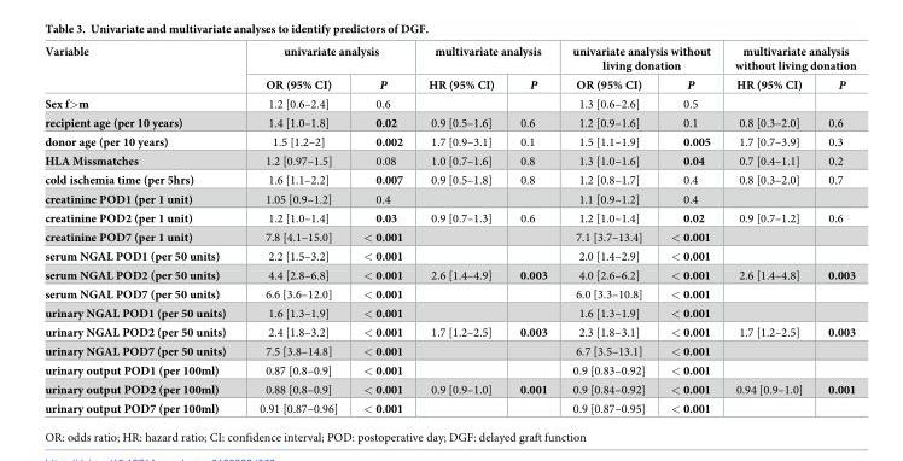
<table><thead><tr><td rowspan="2">Variable</td><td colspan="2">univariate analysis</td><td colspan="2">multivariate analysis</td><td colspan="2">univariate analysis without living donation</td><td colspan="2">multivariate analysis without living donation</td></tr><tr><td>OR (95% CI)</td><td>P</td><td>HR (95% CI)</td><td>P</td><td>OR (95% CI)</td><td>P</td><td>HR (95% CI)</td><td>P</td></tr></thead><tbody><tr><td>Sex f&gt;m</td><td>1.2 [0.6–2.4]</td><td>0.6</td><td></td><td></td><td>1.3 [0.6–2.6]</td><td>0.5</td><td></td><td></td></tr><tr><td>recipient age (per 10 years)</td><td>1.4 [1.0–1.8]</td><td>0.02</td><td>0.9 [0.5–1.6]</td><td>0.6</td><td>1.2 [0.9–1.6]</td><td>0.1</td><td>0.8 [0.3–2.0]</td><td>0.6</td></tr><tr><td>donor age (per 10 years)</td><td>1.5 [1.2–2]</td><td>0.002</td><td>1.7 [0.9–3.1]</td><td>0.1</td><td>1.5 [1.1–1.9]</td><td>0.005</td><td>1.7 [0.7–3.9]</td><td>0.3</td></tr><tr><td>HLA Missmatches</td><td>1.2 [0.97–1.5]</td><td>0.08</td><td>1.0 [0.7–1.6]</td><td>0.8</td><td>1.3 [1.0–1.6]</td><td>0.04</td><td>0.7 [0.4–1.1]</td><td>0.2</td></tr><tr><td>cold ischemia time (per 5hrs)</td><td>1.6 [1.1–2.2]</td><td>0.007</td><td>0.9 [0.5–1.8]</td><td>0.8</td><td>1.2 [0.8–1.7]</td><td>0.4</td><td>0.8 [0.3–2.0]</td><td>0.7</td></tr><tr><td>creatinine POD1 (per 1 unit)</td><td>1.05 [0.9–1.2]</td><td>0.4</td><td></td><td></td><td>1.1 [0.9–1.2]</td><td>0.4</td><td></td><td></td></tr><tr><td>creatinine POD2 (per 1 unit)</td><td>1.2 [1.0–1.4]</td><td>0.03</td><td>0.9 [0.7–1.3]</td><td>0.6</td><td>1.2 [1.0–1.4]</td><td>0.02</td><td>0.9 [0.7–1.2]</td><td>0.6</td></tr><tr><td>creatinine POD7 (per 1 unit)</td><td>7.8 [4.1–15.0]</td><td>&lt; 0.001</td><td></td><td></td><td>7.1 [3.7–13.4]</td><td>&lt; 0.001</td><td></td><td></td></tr><tr><td>serum NGAL POD1 (per 50 units)</td><td>2.2 [1.5–3.2]</td><td>&lt; 0.001</td><td></td><td></td><td>2.0 [1.4–2.9]</td><td>&lt; 0.001</td><td></td><td></td></tr><tr><td>serum NGAL POD2 (per 50 units)</td><td>4.4 [2.8–6.8]</td><td>&lt; 0.001</td><td>2.6 [1.4–4.9]</td><td>0.003</td><td>4.0 [2.6–6.2]</td><td>&lt; 0.001</td><td>2.6 [1.4–4.8]</td><td>0.003</td></tr><tr><td>serum NGAL POD7 (per 50 units)</td><td>6.6 [3.6–12.0]</td><td>&lt; 0.001</td><td></td><td></td><td>6.0 [3.3–10.8]</td><td>&lt; 0.001</td><td></td><td></td></tr><tr><td>urinary NGAL POD1 (per 50 units)</td><td>1.6 [1.3–1.9]</td><td>&lt; 0.001</td><td></td><td></td><td>1.6 [1.3–1.9]</td><td>&lt; 0.001</td><td></td><td></td></tr><tr><td>urinary NGAL POD2 (per 50 units)</td><td>2.4 [1.8–3.2]</td><td>&lt; 0.001</td><td>1.7 [1.2–2.5]</td><td>0.003</td><td>2.3 [1.8–3.1]</td><td>&lt; 0.001</td><td>1.7 [1.2–2.5]</td><td>0.003</td></tr><tr><td>urinary NGAL POD7 (per 50 units)</td><td>7.5 [3.8–14.8]</td><td>&lt; 0.001</td><td></td><td></td><td>6.7 [3.5–13.1]</td><td>&lt; 0.001</td><td></td><td></td></tr><tr><td>urinary output POD1 (per 100ml)</td><td>0.87 [0.8–0.9]</td><td>&lt; 0.001</td><td></td><td></td><td>0.9 [0.83–0.92]</td><td>&lt; 0.001</td><td></td><td></td></tr><tr><td>urinary output POD2 (per 100ml)</td><td>0.88 [0.8–0.9]</td><td>&lt; 0.001</td><td>0.9 [0.9–1.0]</td><td>0.001</td><td>0.9 [0.84–0.92]</td><td>&lt; 0.001</td><td>0.94 [0.9–1.0]</td><td>0.001</td></tr><tr><td>urinary output POD7 (per 100ml)</td><td>0.91 [0.87–0.96]</td><td>&lt; 0.001</td><td></td><td></td><td>0.9 [0.87–0.95]</td><td>&lt; 0.001</td><td></td><td></td></tr></tbody></table>